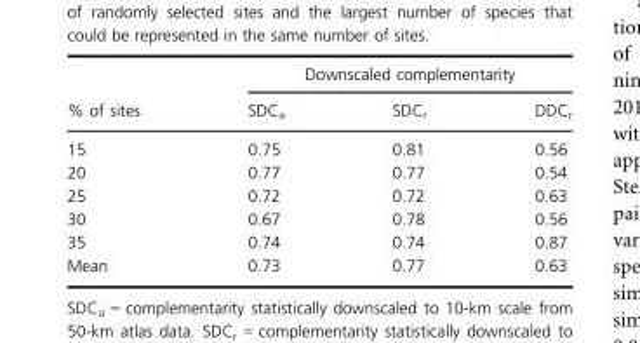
<table><thead><tr><td rowspan="2">% of sites</td><td colspan="3">Downscaled complementarity</td></tr><tr><td>SDC<sub>a</sub></td><td>SDC<sub>r</sub></td><td>DDC<sub>r</sub></td></tr></thead><tbody><tr><td>15</td><td>0.75</td><td>0.81</td><td>0.56</td></tr><tr><td>20</td><td>0.77</td><td>0.77</td><td>0.54</td></tr><tr><td>25</td><td>0.72</td><td>0.72</td><td>0.63</td></tr><tr><td>30</td><td>0.67</td><td>0.78</td><td>0.56</td></tr><tr><td>35</td><td>0.74</td><td>0.74</td><td>0.87</td></tr><tr><td>Mean</td><td>0.73</td><td>0.77</td><td>0.63</td></tr></tbody></table>